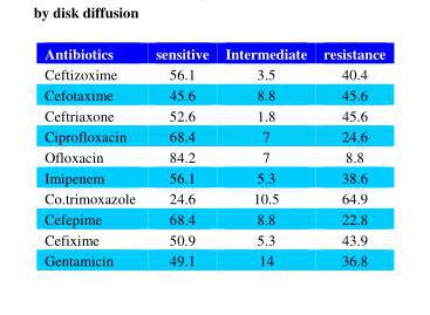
<table><thead><tr><td>Antibiotics</td><td>sensitive</td><td>Intermediate</td><td>resistance</td></tr></thead><tbody><tr><td>Ceftizoxime</td><td>56.1</td><td>3.5</td><td>40.4</td></tr><tr><td>Cefotaxime</td><td>45.6</td><td>8.8</td><td>45.6</td></tr><tr><td>Ceftriaxone</td><td>52.6</td><td>1.8</td><td>45.6</td></tr><tr><td>Ciprofloxacin</td><td>68.4</td><td>7</td><td>24.6</td></tr><tr><td>Ofloxacin</td><td>84.2</td><td>7</td><td>8.8</td></tr><tr><td>Imipenem</td><td>56.1</td><td>5.3</td><td>38.6</td></tr><tr><td>Co.trimoxazole</td><td>24.6</td><td>10.5</td><td>64.9</td></tr><tr><td>Cefepime</td><td>68.4</td><td>8.8</td><td>22.8</td></tr><tr><td>Cefixime</td><td>50.9</td><td>5.3</td><td>43.9</td></tr><tr><td>Gentamicin</td><td>49.1</td><td>14</td><td>36.8</td></tr></tbody></table>